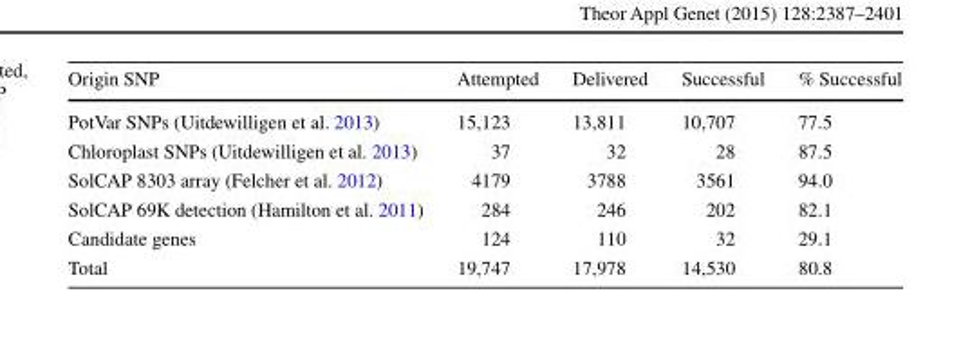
<table><thead><tr><td>Origin SNP</td><td>Attempted</td><td>Delivered</td><td>Successful</td><td>% Successful</td></tr></thead><tbody><tr><td>PotVar SNPs (Uitdewilligen et al. 2013)</td><td>15,123</td><td>13,811</td><td>10,707</td><td>77.5</td></tr><tr><td>Chloroplast SNPs (Uitdewilligen et al. 2013)</td><td>37</td><td>32</td><td>28</td><td>87.5</td></tr><tr><td>SolCAP 8303 array (Felcher et al. 2012)</td><td>4179</td><td>3788</td><td>3561</td><td>94.0</td></tr><tr><td>SolCAP 69K detection (Hamilton et al. 2011)</td><td>284</td><td>246</td><td>202</td><td>82.1</td></tr><tr><td>Candidate genes</td><td>124</td><td>110</td><td>32</td><td>29.1</td></tr><tr><td>Total</td><td>19,747</td><td>17,978</td><td>14,530</td><td>80.8</td></tr></tbody></table>